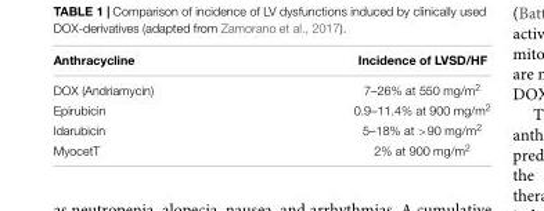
<table><thead><tr><td>Anthracycline</td><td>Incidence of LVSD/HF</td></tr></thead><tbody><tr><td>DOX (Andriamycin)</td><td>7–26% at 550 mg/m<sup>2</sup></td></tr><tr><td>Epirubicin</td><td>0.9–11.4% at 900 mg/m<sup>2</sup></td></tr><tr><td>Idarubicin</td><td>5–18% at &gt;90 mg/m<sup>2</sup></td></tr><tr><td>MyocetT</td><td>2% at 900 mg/m<sup>2</sup></td></tr></tbody></table>